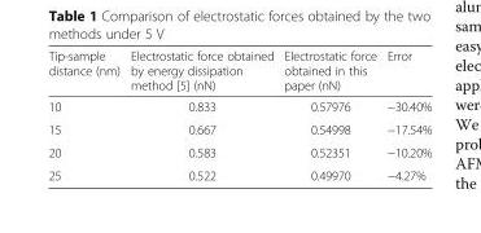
<table><thead><tr><td>Tip-sample distance (nm)</td><td>Electrostatic force obtained by energy dissipation method [5] (nN)</td><td>Electrostatic force obtained in this paper (nN)</td><td>Error</td></tr></thead><tbody><tr><td>10</td><td>0.833</td><td>0.57976</td><td>−30.40%</td></tr><tr><td>15</td><td>0.667</td><td>0.54998</td><td>−17.54%</td></tr><tr><td>20</td><td>0.583</td><td>0.52351</td><td>−10.20%</td></tr><tr><td>25</td><td>0.522</td><td>0.49970</td><td>−4.27%</td></tr></tbody></table>